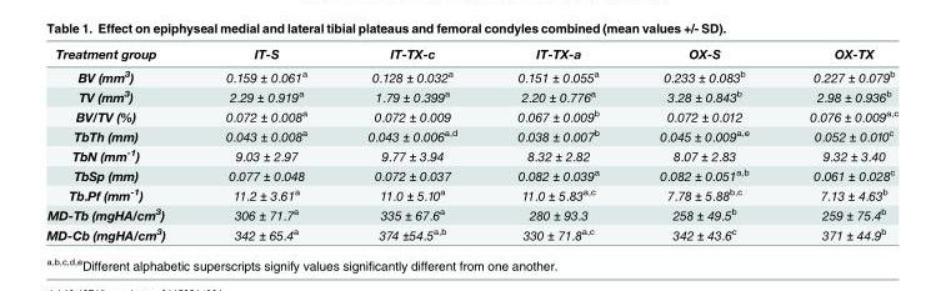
<table><thead><tr><td>Treatment group</td><td>IT-S</td><td>IT-TX-c</td><td>IT-TX-a</td><td>OX-S</td><td>OX-TX</td></tr></thead><tbody><tr><td>BV (mm<sup>3</sup>)</td><td>0.159 ± 0.061<sup>a</sup></td><td>0.128 ± 0.032<sup>a</sup></td><td>0.151 ± 0.055<sup>a</sup></td><td>0.233 ± 0.083<sup>b</sup></td><td>0.227 ± 0.079<sup>b</sup></td></tr><tr><td>TV (mm<sup>3</sup>)</td><td>2.29 ± 0.919<sup>a</sup></td><td>1.79 ± 0.399<sup>a</sup></td><td>2.20 ± 0.776<sup>a</sup></td><td>3.28 ± 0.843<sup>b</sup></td><td>2.98 ± 0.936<sup>b</sup></td></tr><tr><td>BV/TV (%)</td><td>0.072 ± 0.008<sup>a</sup></td><td>0.072 ± 0.009</td><td>0.067 ± 0.009<sup>b</sup></td><td>0.072 ± 0.012</td><td>0.076 ± 0.009<sup>a,c</sup></td></tr><tr><td>TbTh (mm)</td><td>0.043 ± 0.008<sup>a</sup></td><td>0.043 ± 0.006<sup>a,d</sup></td><td>0.038 ± 0.007<sup>b</sup></td><td>0.045 ± 0.009<sup>a,e</sup></td><td>0.052 ± 0.010<sup>c</sup></td></tr><tr><td>TbN (mm<sup>-1</sup>)</td><td>9.03 ± 2.97</td><td>9.77 ± 3.94</td><td>8.32 ± 2.82</td><td>8.07 ± 2.83</td><td>9.32 ± 3.40</td></tr><tr><td>TbSp (mm)</td><td>0.077 ± 0.048</td><td>0.072 ± 0.037</td><td>0.082 ± 0.039<sup>a</sup></td><td>0.082 ± 0.051<sup>a,b</sup></td><td>0.061 ± 0.028<sup>c</sup></td></tr><tr><td>Tb.Pf (mm<sup>-1</sup>)</td><td>11.2 ± 3.61<sup>a</sup></td><td>11.0 ± 5.10<sup>a</sup></td><td>11.0 ± 5.83<sup>a,c</sup></td><td>7.78 ± 5.88<sup>b,c</sup></td><td>7.13 ± 4.63<sup>b</sup></td></tr><tr><td>MD-Tb (mgHA/cm<sup>3</sup>)</td><td>306 ± 71.7<sup>a</sup></td><td>335 ± 67.6<sup>a</sup></td><td>280 ± 93.3</td><td>258 ± 49.5<sup>b</sup></td><td>259 ± 75.4<sup>b</sup></td></tr><tr><td>MD-Cb (mgHA/cm<sup>3</sup>)</td><td>342 ± 65.4<sup>a</sup></td><td>374 ±54.5<sup>a,b</sup></td><td>330 ± 71.8<sup>a,c</sup></td><td>342 ± 43.6<sup>c</sup></td><td>371 ± 44.9<sup>b</sup></td></tr></tbody></table>